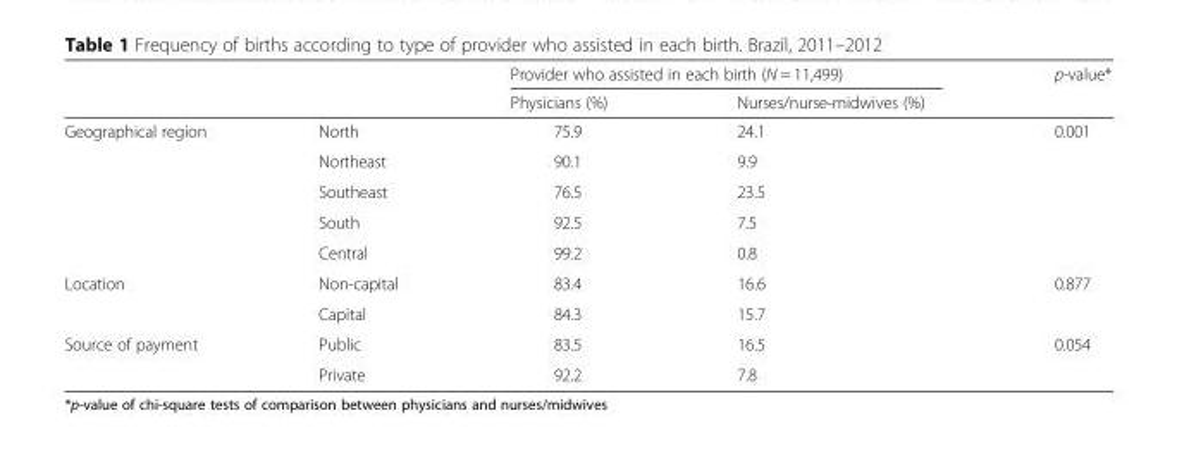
<table><thead><tr><td rowspan="2"></td><td rowspan="2"></td><td colspan="2">Provider who assisted in each birth (N = 11,499)</td><td rowspan="2">p-value*</td></tr><tr><td>Physicians (%)</td><td>Nurses/nurse-midwives (%)</td></tr></thead><tbody><tr><td rowspan="5">Geographical region</td><td>North</td><td>75.9</td><td>24.1</td><td rowspan="5">0.001</td></tr><tr><td>Northeast</td><td>90.1</td><td>9.9</td></tr><tr><td>Southeast</td><td>76.5</td><td>23.5</td></tr><tr><td>South</td><td>92.5</td><td>7.5</td></tr><tr><td>Central</td><td>99.2</td><td>0.8</td></tr><tr><td rowspan="2">Location</td><td>Non-capital</td><td>83.4</td><td>16.6</td><td rowspan="2">0.877</td></tr><tr><td>Capital</td><td>84.3</td><td>15.7</td></tr><tr><td rowspan="2">Source of payment</td><td>Public</td><td>83.5</td><td>16.5</td><td rowspan="2">0.054</td></tr><tr><td>Private</td><td>92.2</td><td>7.8</td></tr></tbody></table>